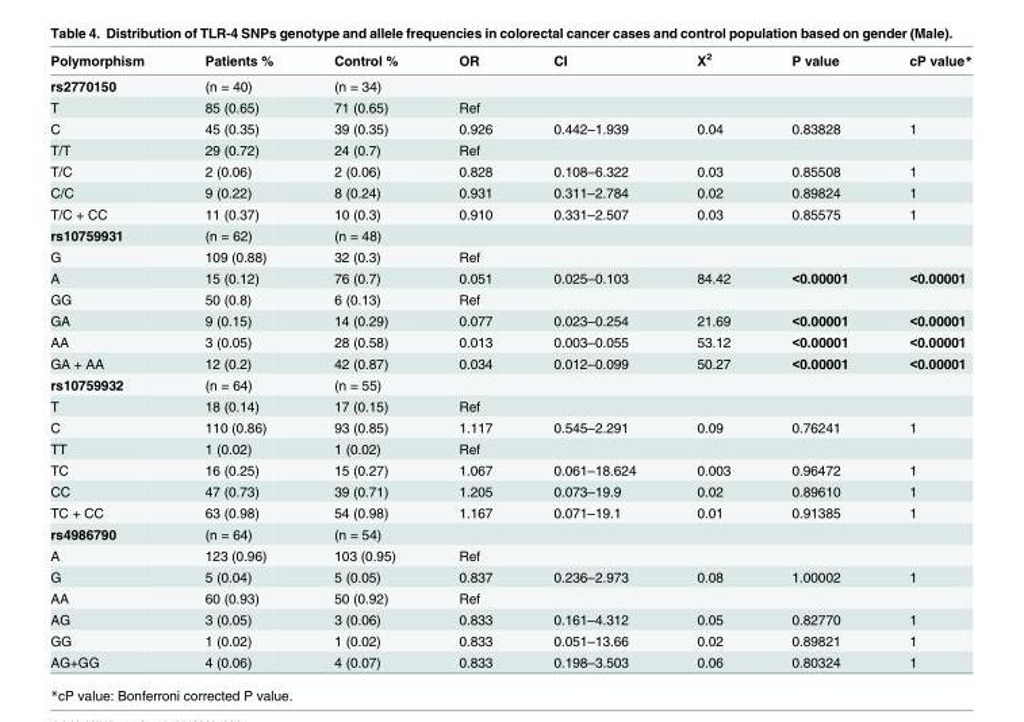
<table><thead><tr><td>Polymorphism</td><td>Patients %</td><td>Control %</td><td>OR</td><td>CI</td><td>X<sup>2</sup></td><td>P value</td><td>cP value*</td></tr></thead><tbody><tr><td>rs2770150</td><td>(n = 40)</td><td>(n = 34)</td><td></td><td></td><td></td><td></td><td></td></tr><tr><td>T</td><td>85 (0.65)</td><td>71 (0.65)</td><td>Ref</td><td></td><td></td><td></td><td></td></tr><tr><td>C</td><td>45 (0.35)</td><td>39 (0.35)</td><td>0.926</td><td>0.442–1.939</td><td>0.04</td><td>0.83828</td><td>1</td></tr><tr><td>T/T</td><td>29 (0.72)</td><td>24 (0.7)</td><td>Ref</td><td></td><td></td><td></td><td></td></tr><tr><td>T/C</td><td>2 (0.06)</td><td>2 (0.06)</td><td>0.828</td><td>0.108–6.322</td><td>0.03</td><td>0.85508</td><td>1</td></tr><tr><td>C/C</td><td>9 (0.22)</td><td>8 (0.24)</td><td>0.931</td><td>0.311–2.784</td><td>0.02</td><td>0.89824</td><td>1</td></tr><tr><td>T/C + CC</td><td>11 (0.37)</td><td>10 (0.3)</td><td>0.910</td><td>0.331–2.507</td><td>0.03</td><td>0.85575</td><td>1</td></tr><tr><td>rs10759931</td><td>(n = 62)</td><td>(n = 48)</td><td></td><td></td><td></td><td></td><td></td></tr><tr><td>G</td><td>109 (0.88)</td><td>32 (0.3)</td><td>Ref</td><td></td><td></td><td></td><td></td></tr><tr><td>A</td><td>15 (0.12)</td><td>76 (0.7)</td><td>0.051</td><td>0.025–0.103</td><td>84.42</td><td>&lt;0.00001</td><td>&lt;0.00001</td></tr><tr><td>GG</td><td>50 (0.8)</td><td>6 (0.13)</td><td>Ref</td><td></td><td></td><td></td><td></td></tr><tr><td>GA</td><td>9 (0.15)</td><td>14 (0.29)</td><td>0.077</td><td>0.023–0.254</td><td>21.69</td><td>&lt;0.00001</td><td>&lt;0.00001</td></tr><tr><td>AA</td><td>3 (0.05)</td><td>28 (0.58)</td><td>0.013</td><td>0.003–0.055</td><td>53.12</td><td>&lt;0.00001</td><td>&lt;0.00001</td></tr><tr><td>GA + AA</td><td>12 (0.2)</td><td>42 (0.87)</td><td>0.034</td><td>0.012–0.099</td><td>50.27</td><td>&lt;0.00001</td><td>&lt;0.00001</td></tr><tr><td>rs10759932</td><td>(n = 64)</td><td>(n = 55)</td><td></td><td></td><td></td><td></td><td></td></tr><tr><td>T</td><td>18 (0.14)</td><td>17 (0.15)</td><td>Ref</td><td></td><td></td><td></td><td></td></tr><tr><td>C</td><td>110 (0.86)</td><td>93 (0.85)</td><td>1.117</td><td>0.545–2.291</td><td>0.09</td><td>0.76241</td><td>1</td></tr><tr><td>TT</td><td>1 (0.02)</td><td>1 (0.02)</td><td>Ref</td><td></td><td></td><td></td><td></td></tr><tr><td>TC</td><td>16 (0.25)</td><td>15 (0.27)</td><td>1.067</td><td>0.061–18.624</td><td>0.003</td><td>0.96472</td><td>1</td></tr><tr><td>CC</td><td>47 (0.73)</td><td>39 (0.71)</td><td>1.205</td><td>0.073–19.9</td><td>0.02</td><td>0.89610</td><td>1</td></tr><tr><td>TC + CC</td><td>63 (0.98)</td><td>54 (0.98)</td><td>1.167</td><td>0.071–19.1</td><td>0.01</td><td>0.91385</td><td>1</td></tr><tr><td>rs4986790</td><td>(n = 64)</td><td>(n = 54)</td><td></td><td></td><td></td><td></td><td></td></tr><tr><td>A</td><td>123 (0.96)</td><td>103 (0.95)</td><td>Ref</td><td></td><td></td><td></td><td></td></tr><tr><td>G</td><td>5 (0.04)</td><td>5 (0.05)</td><td>0.837</td><td>0.236–2.973</td><td>0.08</td><td>1.00002</td><td>1</td></tr><tr><td>AA</td><td>60 (0.93)</td><td>50 (0.92)</td><td>Ref</td><td></td><td></td><td></td><td></td></tr><tr><td>AG</td><td>3 (0.05)</td><td>3 (0.06)</td><td>0.833</td><td>0.161–4.312</td><td>0.05</td><td>0.82770</td><td>1</td></tr><tr><td>GG</td><td>1 (0.02)</td><td>1 (0.02)</td><td>0.833</td><td>0.051–13.66</td><td>0.02</td><td>0.89821</td><td>1</td></tr><tr><td>AG+GG</td><td>4 (0.06)</td><td>4 (0.07)</td><td>0.833</td><td>0.198–3.503</td><td>0.06</td><td>0.80324</td><td>1</td></tr></tbody></table>